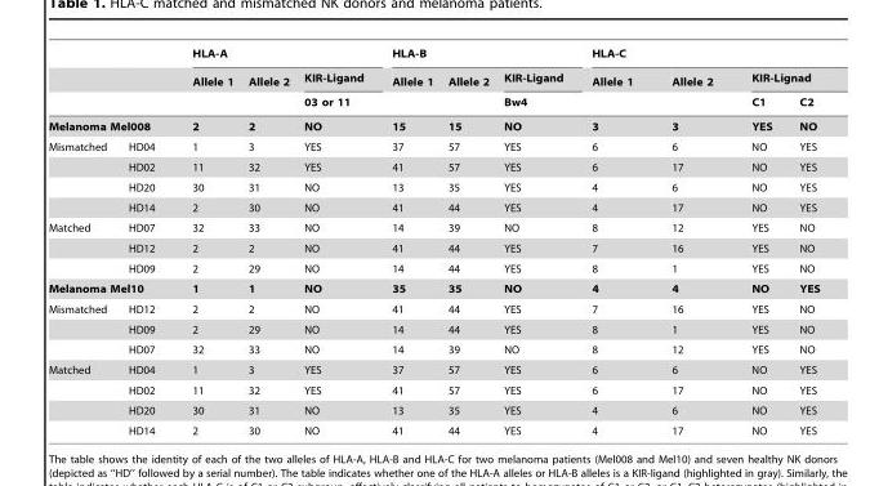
<table><thead><tr><td rowspan="3"></td><td rowspan="3"></td><td colspan="3">HLA-A</td><td colspan="3">HLA-B</td><td colspan="4">HLA-C</td></tr><tr><td rowspan="2">Allele 1</td><td rowspan="2">Allele 2</td><td rowspan="2">KIR-Ligand 03 or 11</td><td rowspan="2">Allele 1</td><td rowspan="2">Allele 2</td><td rowspan="2">KIR-Ligand Bw4</td><td rowspan="2">Allele 1</td><td rowspan="2">Allele 2</td><td colspan="2">KIR-Lignad</td></tr><tr><td>C1</td><td>C2</td></tr></thead><tbody><tr><td colspan="2">Melanoma Mel008</td><td>2</td><td>2</td><td>NO</td><td>15</td><td>15</td><td>NO</td><td>3</td><td>3</td><td>YES</td><td>NO</td></tr><tr><td rowspan="4">Mismatched</td><td>HD04</td><td>1</td><td>3</td><td>YES</td><td>37</td><td>57</td><td>YES</td><td>6</td><td>6</td><td>NO</td><td>YES</td></tr><tr><td>HD02</td><td>11</td><td>32</td><td>YES</td><td>41</td><td>57</td><td>YES</td><td>6</td><td>17</td><td>NO</td><td>YES</td></tr><tr><td>HD20</td><td>30</td><td>31</td><td>NO</td><td>13</td><td>35</td><td>YES</td><td>4</td><td>6</td><td>NO</td><td>YES</td></tr><tr><td>HD14</td><td>2</td><td>30</td><td>NO</td><td>41</td><td>44</td><td>YES</td><td>4</td><td>17</td><td>NO</td><td>YES</td></tr><tr><td rowspan="3">Matched</td><td>HD07</td><td>32</td><td>33</td><td>NO</td><td>14</td><td>39</td><td>NO</td><td>8</td><td>12</td><td>YES</td><td>NO</td></tr><tr><td>HD12</td><td>2</td><td>2</td><td>NO</td><td>41</td><td>44</td><td>YES</td><td>7</td><td>16</td><td>YES</td><td>NO</td></tr><tr><td>HD09</td><td>2</td><td>29</td><td>NO</td><td>14</td><td>44</td><td>YES</td><td>8</td><td>1</td><td>YES</td><td>NO</td></tr><tr><td colspan="2">Melanoma Mel10</td><td>1</td><td>1</td><td>NO</td><td>35</td><td>35</td><td>NO</td><td>4</td><td>4</td><td>NO</td><td>YES</td></tr><tr><td rowspan="3">Mismatched</td><td>HD12</td><td>2</td><td>2</td><td>NO</td><td>41</td><td>44</td><td>YES</td><td>7</td><td>16</td><td>YES</td><td>NO</td></tr><tr><td>HD09</td><td>2</td><td>29</td><td>NO</td><td>14</td><td>44</td><td>YES</td><td>8</td><td>1</td><td>YES</td><td>NO</td></tr><tr><td>HD07</td><td>32</td><td>33</td><td>NO</td><td>14</td><td>39</td><td>NO</td><td>8</td><td>12</td><td>YES</td><td>NO</td></tr><tr><td rowspan="4">Matched</td><td>HD04</td><td>1</td><td>3</td><td>YES</td><td>37</td><td>57</td><td>YES</td><td>6</td><td>6</td><td>NO</td><td>YES</td></tr><tr><td>HD02</td><td>11</td><td>32</td><td>YES</td><td>41</td><td>57</td><td>YES</td><td>6</td><td>17</td><td>NO</td><td>YES</td></tr><tr><td>HD20</td><td>30</td><td>31</td><td>NO</td><td>13</td><td>35</td><td>YES</td><td>4</td><td>6</td><td>NO</td><td>YES</td></tr><tr><td>HD14</td><td>2</td><td>30</td><td>NO</td><td>41</td><td>44</td><td>YES</td><td>4</td><td>17</td><td>NO</td><td>YES</td></tr></tbody></table>